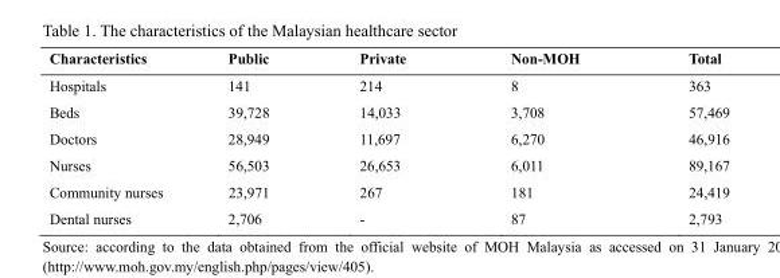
<table><thead><tr><td>Characteristics</td><td>Public</td><td>Private</td><td>Non-MOH</td><td>Total</td></tr></thead><tbody><tr><td>Hospitals</td><td>141</td><td>214</td><td>8</td><td>363</td></tr><tr><td>Beds</td><td>39,728</td><td>14,033</td><td>3,708</td><td>57,469</td></tr><tr><td>Doctors</td><td>28,949</td><td>11,697</td><td>6,270</td><td>46,916</td></tr><tr><td>Nurses</td><td>56,503</td><td>26,653</td><td>6,011</td><td>89,167</td></tr><tr><td>Community nurses</td><td>23,971</td><td>267</td><td>181</td><td>24,419</td></tr><tr><td>Dental nurses</td><td>2,706</td><td>-</td><td>87</td><td>2,793</td></tr></tbody></table>